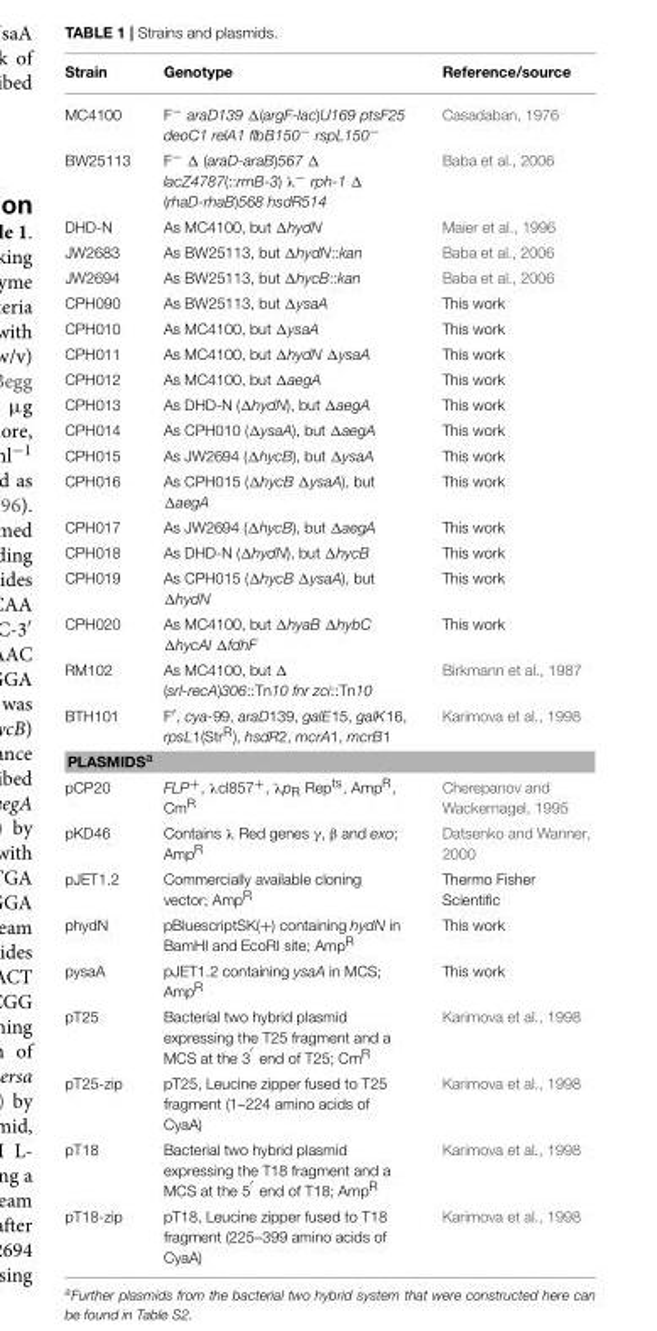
<table><thead><tr><td>Strain</td><td>Genotype</td><td>Reference/source</td></tr></thead><tbody><tr><td>MC4100</td><td>F<sup>−</sup> araD139 Δ(argF-lac)U169 ptsF25 deoC1 relA1 flbB150<sup>−</sup> rspL150<sup>−</sup></td><td>Casadaban, 1976</td></tr><tr><td>BW25113</td><td>F<sup>−</sup> Δ (araD-araB)567 Δ lacZ4787(::rrnB-3) λ<sup>−</sup> rph-1 Δ (rhaD-rhaB)568 hsdR514</td><td>Baba et al., 2006</td></tr><tr><td>DHD-N</td><td>As MC4100, but ΔhydN</td><td>Maier et al., 1996</td></tr><tr><td>JW2683</td><td>As BW25113, but ΔhydN::kan</td><td>Baba et al., 2006</td></tr><tr><td>JW2694</td><td>As BW25113, but ΔhycB::kan</td><td>Baba et al., 2006</td></tr><tr><td>CPH090</td><td>As BW25113, but ΔysaA</td><td>This work</td></tr><tr><td>CPH010</td><td>As MC4100, but ΔysaA</td><td>This work</td></tr><tr><td>CPH011</td><td>As MC4100, but ΔhydN ΔysaA</td><td>This work</td></tr><tr><td>CPH012</td><td>As MC4100, but ΔaegA</td><td>This work</td></tr><tr><td>CPH013</td><td>As DHD-N (ΔhydN), but ΔaegA</td><td>This work</td></tr><tr><td>CPH014</td><td>As CPH010 (ΔysaA), but ΔaegA</td><td>This work</td></tr><tr><td>CPH015</td><td>As JW2694 (ΔhycB), but ΔysaA</td><td>This work</td></tr><tr><td>CPH016</td><td>As CPH015 (ΔhycB ΔysaA), but ΔaegA</td><td>This work</td></tr><tr><td>CPH017</td><td>As JW2694 (ΔhycB), but ΔaegA</td><td>This work</td></tr><tr><td>CPH018</td><td>As DHD-N (ΔhydN), but ΔhycB</td><td>This work</td></tr><tr><td>CPH019</td><td>As CPH015 (ΔhycB ΔysaA), but ΔhydN</td><td>This work</td></tr><tr><td>CPH020</td><td>As MC4100, but ΔhyaB ΔhybC ΔhycAI ΔfdhF</td><td>This work</td></tr><tr><td>RM102</td><td>As MC4100, but Δ (srl-recA)306::Tn10 fnr zci::Tn10</td><td>Birkmann et al., 1987</td></tr><tr><td>BTH101</td><td>F′, cya-99, araD139, galE15, galK16, rpsL1(Str<sup>R</sup>), hsdR2, mcrA1, mcrB1</td><td>Karimova et al., 1998</td></tr><tr><td colspan="3">PLASMIDS<sup>a</sup></td></tr><tr><td>pCP20</td><td>FLP<sup>+</sup>, λcl857<sup>+</sup>, λp<sub>R</sub> Rep<sup>ts</sup>, Amp<sup>R</sup>, Cm<sup>R</sup></td><td>Cherepanov and Wackernagel, 1995</td></tr><tr><td>pKD46</td><td>Contains λ Red genes γ, β and exo; Amp<sup>R</sup></td><td>Datsenko and Wanner, 2000</td></tr><tr><td>pJET1.2</td><td>Commercially available cloning vector; Amp<sup>R</sup></td><td>Thermo Fisher Scientific</td></tr><tr><td>phydN</td><td>pBluescriptSK(+) containing hydN in BamHI and EcoRI site; Amp<sup>R</sup></td><td>This work</td></tr><tr><td>pysaA</td><td>pJET1.2 containing ysaA in MCS; Amp<sup>R</sup></td><td>This work</td></tr><tr><td>pT25</td><td>Bacterial two hybrid plasmid expressing the T25 fragment and a MCS at the 3 ′ end of T25; Cm<sup>R</sup></td><td>Karimova et al., 1998</td></tr><tr><td>pT25-zip</td><td>pT25, Leucine zipper fused to T25 fragment (1–224 amino acids of CyaA)</td><td>Karimova et al., 1998</td></tr><tr><td>pT18</td><td>Bacterial two hybrid plasmid expressing the T18 fragment and a MCS at the 5 ′ end of T18; Amp<sup>R</sup></td><td>Karimova et al., 1998</td></tr><tr><td>pT18-zip</td><td>pT18, Leucine zipper fused to T18 fragment (225–399 amino acids of CyaA)</td><td>Karimova et al., 1998</td></tr></tbody></table>